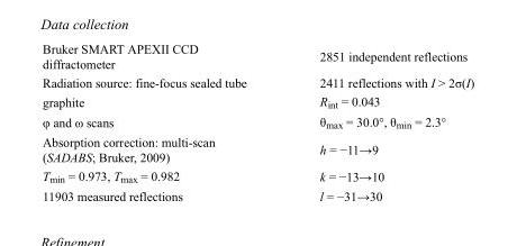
<table><tbody><tr><td>Bruker SMART APEXII CCD diffractometer</td><td>2851 independent reflections</td></tr><tr><td>Radiation source: fine-focus sealed tube</td><td>2411 reflections with I &gt; 2σ(I)</td></tr><tr><td>graphite</td><td>R<sub>int</sub> = 0.043</td></tr><tr><td>φ and ω scans</td><td>θ<sub>max</sub> = 30.0°, θ<sub>min</sub> = 2.3°</td></tr><tr><td>Absorption correction: multi-scan (SADABS; Bruker, 2009)</td><td>h = −11→9</td></tr><tr><td>T<sub>min</sub> = 0.973, T<sub>max</sub> = 0.982</td><td>k = −13→10</td></tr><tr><td>11903 measured reflections</td><td>l = −31→30</td></tr></tbody></table>